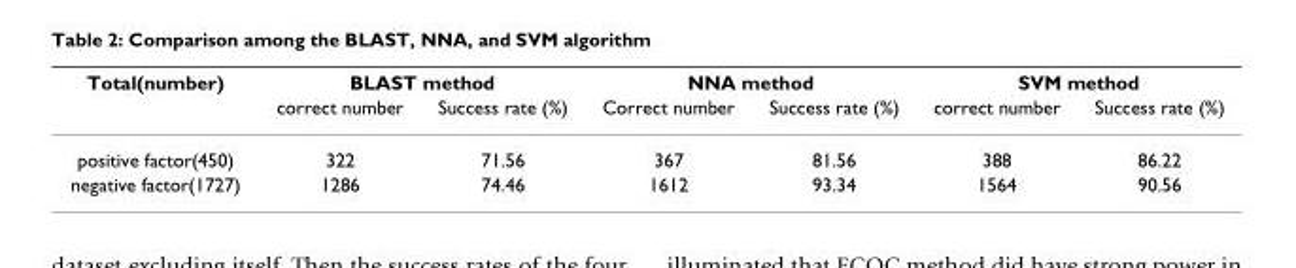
<table><thead><tr><td rowspan="2">Total(number)</td><td colspan="2">BLAST method</td><td colspan="2">NNA method</td><td colspan="2">SVM method</td></tr><tr><td>correct number</td><td>Success rate (%)</td><td>Correct number</td><td>Success rate (%)</td><td>correct number</td><td>Success rate (%)</td></tr></thead><tbody><tr><td>positive factor(450)</td><td>322</td><td>71.56</td><td>367</td><td>81.56</td><td>388</td><td>86.22</td></tr><tr><td>negative factor(1727)</td><td>1286</td><td>74.46</td><td>1612</td><td>93.34</td><td>1564</td><td>90.56</td></tr></tbody></table>